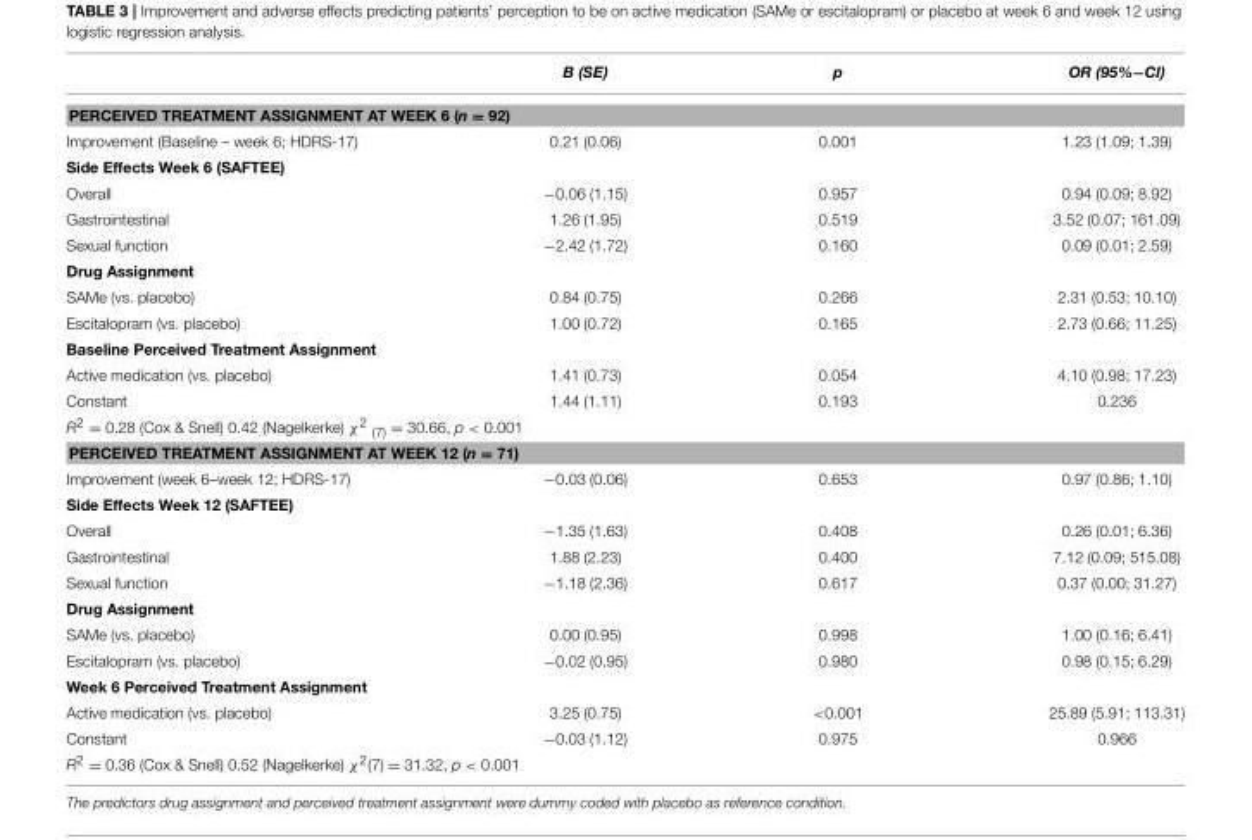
<table><thead><tr><td></td><td>B (SE)</td><td>p</td><td>OR (95%−CI)</td></tr></thead><tbody><tr><td colspan="4">PERCEIVED TREATMENT ASSIGNMENT AT WEEK 6 (n = 92)</td></tr><tr><td>Improvement (Baseline – week 6; HDRS-17)</td><td>0.21 (0.06)</td><td>0.001</td><td>1.23 (1.09; 1.39)</td></tr><tr><td colspan="4">Side Effects Week 6 (SAFTEE)</td></tr><tr><td>Overall</td><td>−0.06 (1.15)</td><td>0.957</td><td>0.94 (0.09; 8.92)</td></tr><tr><td>Gastrointestinal</td><td>1.26 (1.95)</td><td>0.519</td><td>3.52 (0.07; 161.09)</td></tr><tr><td>Sexual function</td><td>−2.42 (1.72)</td><td>0.160</td><td>0.09 (0.01; 2.59)</td></tr><tr><td colspan="4">Drug Assignment</td></tr><tr><td>SAMe (vs. placebo)</td><td>0.84 (0.75)</td><td>0.266</td><td>2.31 (0.53; 10.10)</td></tr><tr><td>Escitalopram (vs. placebo)</td><td>1.00 (0.72)</td><td>0.165</td><td>2.73 (0.66; 11.25)</td></tr><tr><td colspan="4">Baseline Perceived Treatment Assignment</td></tr><tr><td>Active medication (vs. placebo)</td><td>1.41 (0.73)</td><td>0.054</td><td>4.10 (0.98; 17.23)</td></tr><tr><td>Constant</td><td>1.44 (1.11)</td><td>0.193</td><td>0.236</td></tr><tr><td colspan="4">R<sup>2</sup> = 0.28 (Cox &amp; Snell) 0.42 (Nagelkerke) χ<sup>2</sup> <sub>(7)</sub> = 30.66, p &lt; 0.001</td></tr><tr><td colspan="4">PERCEIVED TREATMENT ASSIGNMENT AT WEEK 12 (n = 71)</td></tr><tr><td>Improvement (week 6–week 12; HDRS-17)</td><td>−0.03 (0.06)</td><td>0.653</td><td>0.97 (0.86; 1.10)</td></tr><tr><td colspan="4">Side Effects Week 12 (SAFTEE)</td></tr><tr><td>Overall</td><td>−1.35 (1.63)</td><td>0.408</td><td>0.26 (0.01; 6.36)</td></tr><tr><td>Gastrointestinal</td><td>1.88 (2.23)</td><td>0.400</td><td>7.12 (0.09; 515.08)</td></tr><tr><td>Sexual function</td><td>−1.18 (2.36)</td><td>0.617</td><td>0.37 (0.00; 31.27)</td></tr><tr><td colspan="4">Drug Assignment</td></tr><tr><td>SAMe (vs. placebo)</td><td>0.00 (0.95)</td><td>0.998</td><td>1.00 (0.16; 6.41)</td></tr><tr><td>Escitalopram (vs. placebo)</td><td>−0.02 (0.95)</td><td>0.980</td><td>0.98 (0.15; 6.29)</td></tr><tr><td colspan="4">Week 6 Perceived Treatment Assignment</td></tr><tr><td>Active medication (vs. placebo)</td><td>3.25 (0.75)</td><td>&lt;0.001</td><td>25.89 (5.91; 113.31)</td></tr><tr><td>Constant</td><td>−0.03 (1.12)</td><td>0.975</td><td>0.966</td></tr><tr><td colspan="4">R<sup>2</sup> = 0.36 (Cox &amp; Snell) 0.52 (Nagelkerke) χ<sup>2</sup>(7) = 31.32, p &lt; 0.001</td></tr></tbody></table>